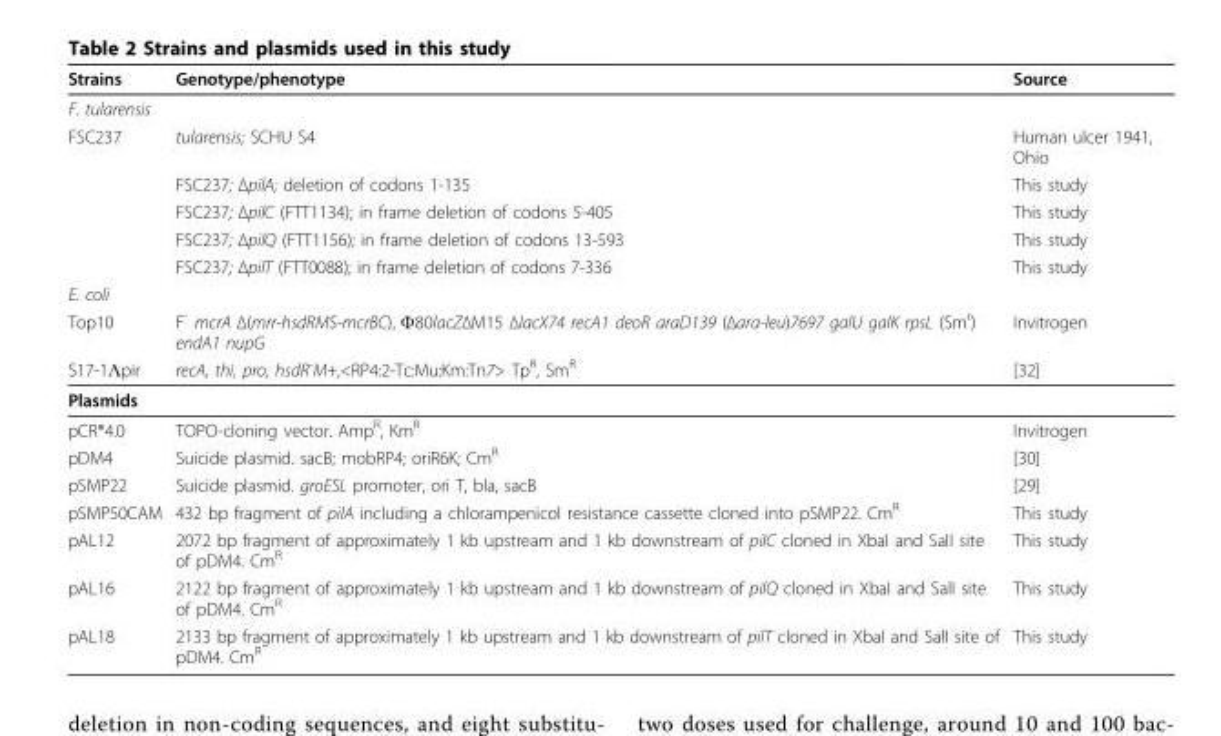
<table><thead><tr><td>Strains</td><td>Genotype/phenotype</td><td>Source</td></tr></thead><tbody><tr><td colspan="3">F. tularensis</td></tr><tr><td rowspan="5">FSC237</td><td>tularensis; SCHU S4</td><td>Human ulcer 1941, Ohio</td></tr><tr><td>FSC237; ΔpilA; deletion of codons 1-135</td><td>This study</td></tr><tr><td>FSC237; ΔpilC (FTT1134); in frame deletion of codons 5-405</td><td>This study</td></tr><tr><td>FSC237; ΔpilQ (FTT1156); in frame deletion of codons 13-593</td><td>This study</td></tr><tr><td>FSC237; ΔpilT (FTT0088); in frame deletion of codons 7-336</td><td>This study</td></tr><tr><td colspan="3">E. coli</td></tr><tr><td>Top10</td><td>F<sup>-</sup> mcrA Δ(mrr-hsdRMS-mcrBC), Φ80lacZΔM15 ΔlacX74 recA1 deoR araD139 (Δara-leu)7697 galU galK rpsL (Sm<sup>r</sup>) endA1 nupG</td><td>Invitrogen</td></tr><tr><td>S17-1Λpir</td><td>recA, thi, pro, hsdR<sup>-</sup>M+,&lt;RP4:2-Tc:Mu:Km:Tn7&gt; Tp<sup>R</sup>, Sm<sup>R</sup></td><td>[32]</td></tr><tr><td colspan="3">Plasmids</td></tr><tr><td>pCR<sup>®</sup>4.0</td><td>TOPO-cloning vector. Amp<sup>R</sup>, Km<sup>R</sup></td><td>Invitrogen</td></tr><tr><td>pDM4</td><td>Suicide plasmid. sacB; mobRP4; oriR6K; Cm<sup>R</sup></td><td>[30]</td></tr><tr><td>pSMP22</td><td>Suicide plasmid. groESL promoter, ori T, bla, sacB</td><td>[29]</td></tr><tr><td>pSMP50CAM</td><td>432 bp fragment of pilA including a chlorampenicol resistance cassette cloned into pSMP22. Cm<sup>R</sup></td><td>This study</td></tr><tr><td>pAL12</td><td>2072 bp fragment of approximately 1 kb upstream and 1 kb downstream of pilC cloned in XbaI and SalI site of pDM4. Cm<sup>R</sup></td><td>This study</td></tr><tr><td>pAL16</td><td>2122 bp fragment of approximately 1 kb upstream and 1 kb downstream of pilQ cloned in XbaI and SalI site of pDM4. Cm<sup>R</sup></td><td>This study</td></tr><tr><td>pAL18</td><td>2133 bp fragment of approximately 1 kb upstream and 1 kb downstream of pilT cloned in XbaI and SalI site of pDM4. Cm<sup>R</sup></td><td>This study</td></tr></tbody></table>